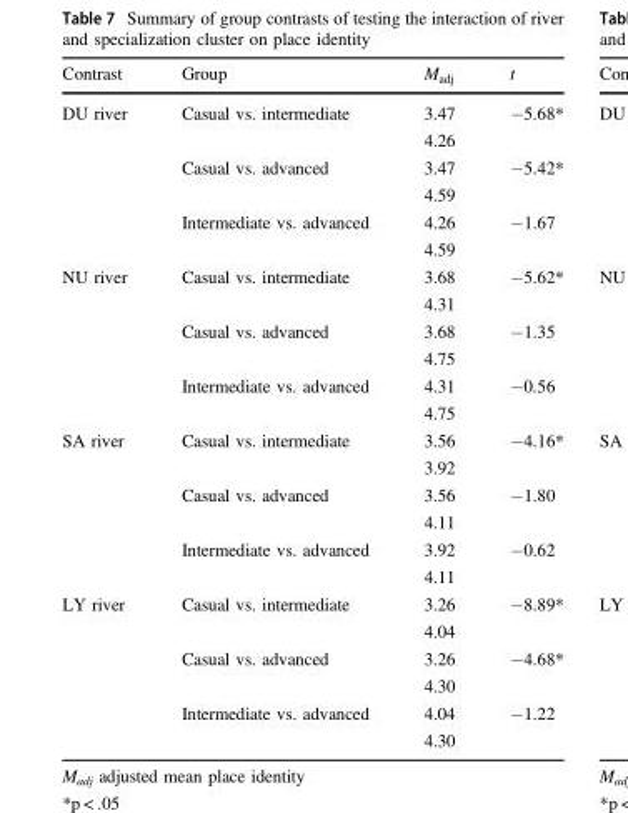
<table><thead><tr><td>Contrast</td><td>Group</td><td>M<sub>adj</sub></td><td>t</td></tr></thead><tbody><tr><td rowspan="6">DU river</td><td>Casual vs. intermediate</td><td>3.47</td><td>−5.68*</td></tr><tr><td></td><td>4.26</td><td></td></tr><tr><td>Casual vs. advanced</td><td>3.47</td><td>−5.42*</td></tr><tr><td></td><td>4.59</td><td></td></tr><tr><td>Intermediate vs. advanced</td><td>4.26</td><td>−1.67</td></tr><tr><td></td><td>4.59</td><td></td></tr><tr><td rowspan="6">NU river</td><td>Casual vs. intermediate</td><td>3.68</td><td>−5.62*</td></tr><tr><td></td><td>4.31</td><td></td></tr><tr><td>Casual vs. advanced</td><td>3.68</td><td>−1.35</td></tr><tr><td></td><td>4.75</td><td></td></tr><tr><td>Intermediate vs. advanced</td><td>4.31</td><td>−0.56</td></tr><tr><td></td><td>4.75</td><td></td></tr><tr><td rowspan="6">SA river</td><td>Casual vs. intermediate</td><td>3.56</td><td>−4.16*</td></tr><tr><td></td><td>3.92</td><td></td></tr><tr><td>Casual vs. advanced</td><td>3.56</td><td>−1.80</td></tr><tr><td></td><td>4.11</td><td></td></tr><tr><td>Intermediate vs. advanced</td><td>3.92</td><td>−0.62</td></tr><tr><td></td><td>4.11</td><td></td></tr><tr><td rowspan="6">LY river</td><td>Casual vs. intermediate</td><td>3.26</td><td>−8.89*</td></tr><tr><td></td><td>4.04</td><td></td></tr><tr><td>Casual vs. advanced</td><td>3.26</td><td>−4.68*</td></tr><tr><td></td><td>4.30</td><td></td></tr><tr><td>Intermediate vs. advanced</td><td>4.04</td><td>−1.22</td></tr><tr><td></td><td>4.30</td><td></td></tr></tbody></table>